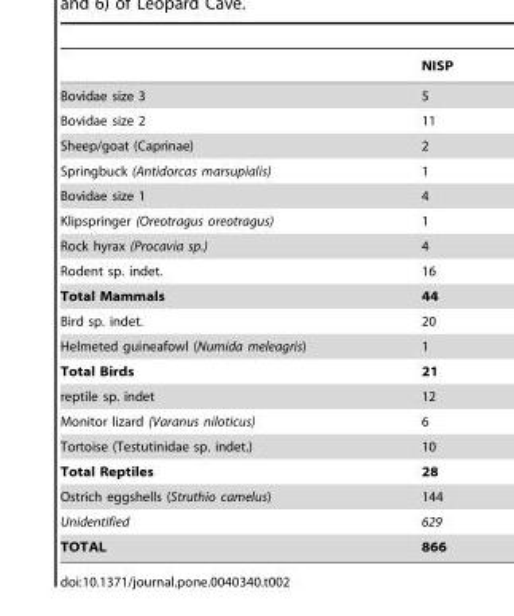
<table><thead><tr><td></td><td>NISP</td></tr></thead><tbody><tr><td>Bovidae size 3</td><td>5</td></tr><tr><td>Bovidae size 2</td><td>11</td></tr><tr><td>Sheep/goat (Caprinae)</td><td>2</td></tr><tr><td>Springbuck (Antidorcas marsupialis)</td><td>1</td></tr><tr><td>Bovidae size 1</td><td>4</td></tr><tr><td>Klipspringer (Oreotragus oreotragus)</td><td>1</td></tr><tr><td>Rock hyrax (Procavia sp.)</td><td>4</td></tr><tr><td>Rodent sp. indet.</td><td>16</td></tr><tr><td>Total Mammals</td><td>44</td></tr><tr><td>Bird sp. indet.</td><td>20</td></tr><tr><td>Helmeted guineafowl (Numida meleagris)</td><td>1</td></tr><tr><td>Total Birds</td><td>21</td></tr><tr><td>reptile sp. indet</td><td>12</td></tr><tr><td>Monitor lizard (Varanus niloticus)</td><td>6</td></tr><tr><td>Tortoise (Testutinidae sp. indet.)</td><td>10</td></tr><tr><td>Total Reptiles</td><td>28</td></tr><tr><td>Ostrich eggshells (Struthio camelus)</td><td>144</td></tr><tr><td>Unidentified</td><td>629</td></tr><tr><td>TOTAL</td><td>866</td></tr></tbody></table>